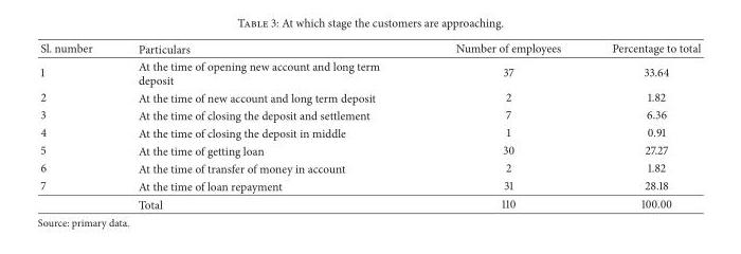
<table><thead><tr><td>Sl. number</td><td>Particulars</td><td>Number of employees</td><td>Percentage to total</td></tr></thead><tbody><tr><td>1</td><td>At the time of opening new account and long term deposit</td><td>37</td><td>33.64</td></tr><tr><td>2</td><td>At the time of new account and long term deposit</td><td>2</td><td>1.82</td></tr><tr><td>3</td><td>At the time of closing the deposit and settlement</td><td>7</td><td>6.36</td></tr><tr><td>4</td><td>At the time of closing the deposit in middle</td><td>1</td><td>0.91</td></tr><tr><td>5</td><td>At the time of getting loan</td><td>30</td><td>27.27</td></tr><tr><td>6</td><td>At the time of transfer of money in account</td><td>2</td><td>1.82</td></tr><tr><td rowspan="2">7</td><td>At the time of loan repayment</td><td>31</td><td>28.18</td></tr><tr><td>Total</td><td>110</td><td>100.00</td></tr></tbody></table>